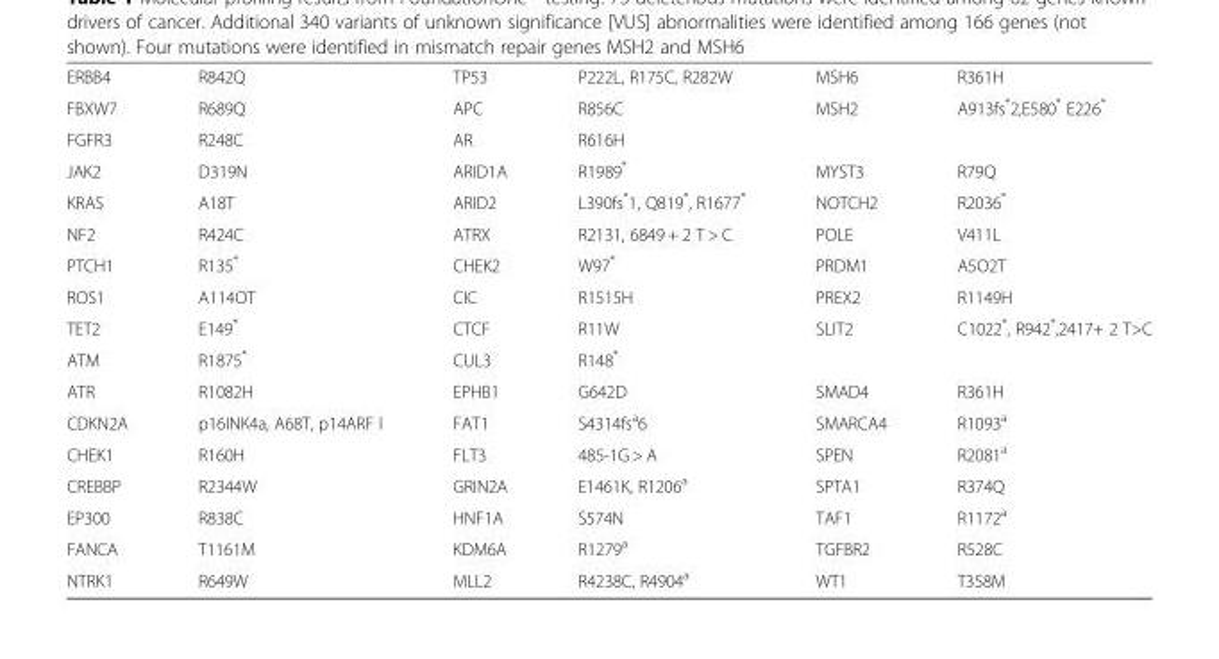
<table><tbody><tr><td>ERBB4</td><td>R842Q</td><td>TP53</td><td>P222L, R175C, R282W</td><td>MSH6</td><td>R361H</td></tr><tr><td>FBXW7</td><td>R689Q</td><td>APC</td><td>R856C</td><td>MSH2</td><td>A913fs*2,E580* E226*</td></tr><tr><td>FGFR3</td><td>R248C</td><td>AR</td><td>R616H</td><td></td><td></td></tr><tr><td>JAK2</td><td>D319N</td><td>ARID1A</td><td>R1989*</td><td>MYST3</td><td>R79Q</td></tr><tr><td>KRAS</td><td>A18T</td><td>ARID2</td><td>L390fs*1, Q819*, R1677*</td><td>NOTCH2</td><td>R2036*</td></tr><tr><td>NF2</td><td>R424C</td><td>ATRX</td><td>R2131, 6849 + 2 T &gt; C</td><td>POLE</td><td>V411L</td></tr><tr><td>PTCH1</td><td>R135*</td><td>CHEK2</td><td>W97*</td><td>PRDM1</td><td>A5O2T</td></tr><tr><td>ROS1</td><td>A114OT</td><td>CIC</td><td>R1515H</td><td>PREX2</td><td>R1149H</td></tr><tr><td>TET2</td><td>E149*</td><td>CTCF</td><td>R11W</td><td>SLIT2</td><td>C1022*, R942*,2417+ 2 T&gt;C</td></tr><tr><td>ATM</td><td>R1875*</td><td>CUL3</td><td>R148*</td><td></td><td></td></tr><tr><td>ATR</td><td>R1082H</td><td>EPHB1</td><td>G642D</td><td>SMAD4</td><td>R361H</td></tr><tr><td>CDKN2A</td><td>p16INK4a, A68T, p14ARF l</td><td>FAT1</td><td>S4314fs<sup>a</sup>6</td><td>SMARCA4</td><td>R1093<sup>a</sup></td></tr><tr><td>CHEK1</td><td>R160H</td><td>FLT3</td><td>485-1G &gt; A</td><td>SPEN</td><td>R2081<sup>a</sup></td></tr><tr><td>CREBBP</td><td>R2344W</td><td>GRIN2A</td><td>E1461K, R1206<sup>a</sup></td><td>SPTA1</td><td>R374Q</td></tr><tr><td>EP300</td><td>R838C</td><td>HNF1A</td><td>S574N</td><td>TAF1</td><td>R1172<sup>a</sup></td></tr><tr><td>FANCA</td><td>T1161M</td><td>KDM6A</td><td>R1279<sup>a</sup></td><td>TGFBR2</td><td>R528C</td></tr><tr><td>NTRK1</td><td>R649W</td><td>MLL2</td><td>R4238C, R4904<sup>a</sup></td><td>WT1</td><td>T358M</td></tr></tbody></table>